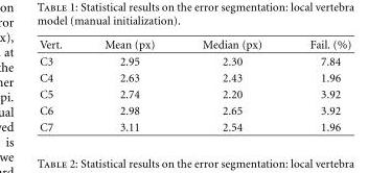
<table><thead><tr><td>Vert.</td><td>Mean (px)</td><td>Median (px)</td><td>Fail. (%)</td></tr></thead><tbody><tr><td>C3</td><td>2.95</td><td>2.30</td><td>7.84</td></tr><tr><td>C4</td><td>2.63</td><td>2.43</td><td>1.96</td></tr><tr><td>C5</td><td>2.74</td><td>2.20</td><td>3.92</td></tr><tr><td>C6</td><td>2.98</td><td>2.65</td><td>3.92</td></tr><tr><td>C7</td><td>3.11</td><td>2.54</td><td>1.96</td></tr></tbody></table>